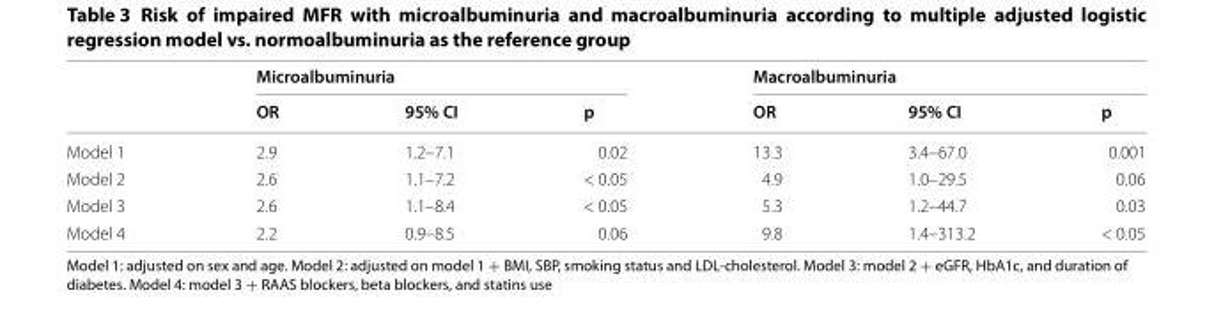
<table><thead><tr><td rowspan="2"></td><td colspan="3">Microalbuminuria</td><td colspan="3">Macroalbuminuria</td></tr><tr><td>OR</td><td>95% CI</td><td>p</td><td>OR</td><td>95% CI</td><td>p</td></tr></thead><tbody><tr><td>Model 1</td><td>2.9</td><td>1.2–7.1</td><td>0.02</td><td>13.3</td><td>3.4–67.0</td><td>0.001</td></tr><tr><td>Model 2</td><td>2.6</td><td>1.1–7.2</td><td>&lt; 0.05</td><td>4.9</td><td>1.0–29.5</td><td>0.06</td></tr><tr><td>Model 3</td><td>2.6</td><td>1.1–8.4</td><td>&lt; 0.05</td><td>5.3</td><td>1.2–44.7</td><td>0.03</td></tr><tr><td>Model 4</td><td>2.2</td><td>0.9–8.5</td><td>0.06</td><td>9.8</td><td>1.4–313.2</td><td>&lt; 0.05</td></tr></tbody></table>